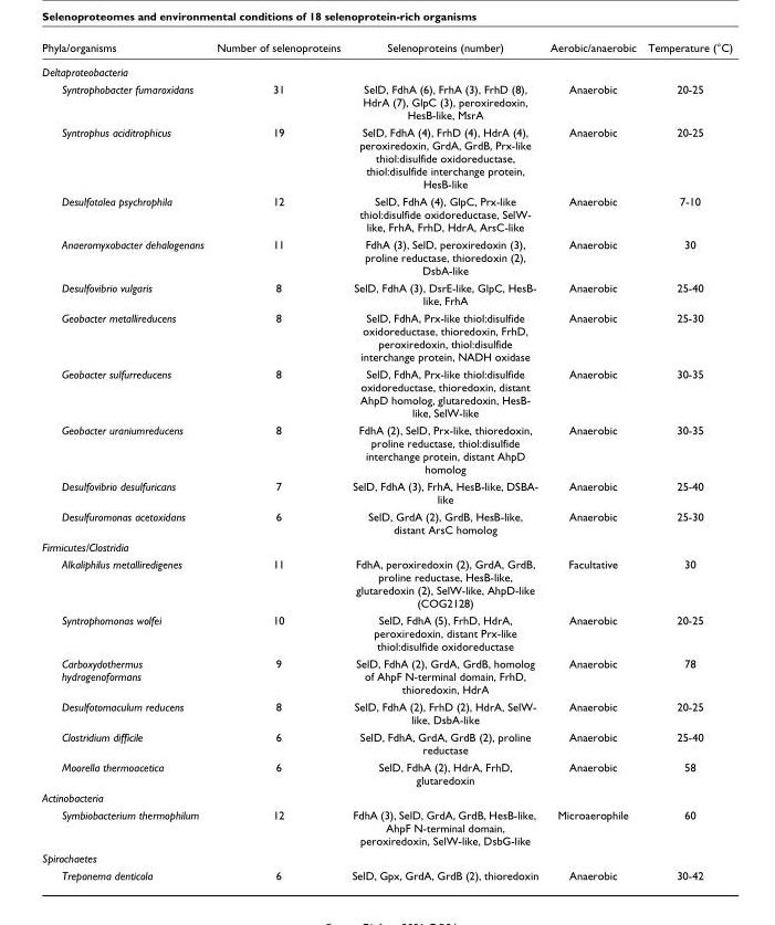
<table><thead><tr><td>Phyla/organisms</td><td>Number of selenoproteins</td><td>Selenoproteins (number)</td><td>Aerobic/anaerobic</td><td>Temperature (°C)</td></tr></thead><tbody><tr><td colspan="5">Deltaproteobacteria</td></tr><tr><td>Syntrophobacter fumaroxidans</td><td>31</td><td>SelD, FdhA (6), FrhA (3), FrhD (8), HdrA (7), GlpC (3), peroxiredoxin, HesB-like, MsrA</td><td>Anaerobic</td><td>20-25</td></tr><tr><td>Syntrophus aciditrophicus</td><td>19</td><td>SelD, FdhA (4), FrhD (4), HdrA (4), peroxiredoxin, GrdA, GrdB, Prx-like thiol:disulfide oxidoreductase, thiol:disulfide interchange protein, HesB-like</td><td>Anaerobic</td><td>20-25</td></tr><tr><td>Desulfotalea psychrophila</td><td>12</td><td>SelD, FdhA (4), GlpC, Prx-like thiol:disulfide oxidoreductase, SelW- like, FrhA, FrhD, HdrA, ArsC-like</td><td>Anaerobic</td><td>7-10</td></tr><tr><td>Anaeromyxobacter dehalogenans</td><td>11</td><td>FdhA (3), SelD, peroxiredoxin (3), proline reductase, thioredoxin (2), DsbA-like</td><td>Anaerobic</td><td>30</td></tr><tr><td>Desulfovibrio vulgaris</td><td>8</td><td>SelD, FdhA (3), DsrE-like, GlpC, HesB- like, FrhA</td><td>Anaerobic</td><td>25-40</td></tr><tr><td>Geobacter metallireducens</td><td>8</td><td>SelD, FdhA, Prx-like thiol:disulfide oxidoreductase, thioredoxin, FrhD, peroxiredoxin, thiol:disulfide interchange protein, NADH oxidase</td><td>Anaerobic</td><td>25-30</td></tr><tr><td>Geobacter sulfurreducens</td><td>8</td><td>SelD, FdhA, Prx-like thiol:disulfide oxidoreductase, thioredoxin, distant AhpD homolog, glutaredoxin, HesB- like, SelW-like</td><td>Anaerobic</td><td>30-35</td></tr><tr><td>Geobacter uraniumreducens</td><td>8</td><td>FdhA (2), SelD, Prx-like, thioredoxin, proline reductase, thiol:disulfide interchange protein, distant AhpD homolog</td><td>Anaerobic</td><td>30-35</td></tr><tr><td>Desulfovibrio desulfuricans</td><td>7</td><td>SelD, FdhA (3), FrhA, HesB-like, DSBA- like</td><td>Anaerobic</td><td>25-40</td></tr><tr><td>Desulfuromonas acetoxidans</td><td>6</td><td>SelD, GrdA (2), GrdB, HesB-like, distant ArsC homolog</td><td>Anaerobic</td><td>25-30</td></tr><tr><td colspan="5">Firmicutes/Clostridia</td></tr><tr><td>Alkaliphilus metalliredigenes</td><td>11</td><td>FdhA, peroxiredoxin (2), GrdA, GrdB, proline reductase, HesB-like, glutaredoxin (2), SelW-like, AhpD-like (COG2128)</td><td>Facultative</td><td>30</td></tr><tr><td>Syntrophomonas wolfei</td><td>10</td><td>SelD, FdhA (5), FrhD, HdrA, peroxiredoxin, distant Prx-like thiol:disulfide oxidoreductase</td><td>Anaerobic</td><td>20-25</td></tr><tr><td>Carboxydothermus hydrogenoformans</td><td>9</td><td>SelD, FdhA (2), GrdA, GrdB, homolog of AhpF N-terminal domain, FrhD, thioredoxin, HdrA</td><td>Anaerobic</td><td>78</td></tr><tr><td>Desulfotomaculum reducens</td><td>8</td><td>SelD, FdhA (2), FrhD (2), HdrA, SelW- like, DsbA-like</td><td>Anaerobic</td><td>20-25</td></tr><tr><td>Clostridium difficile</td><td>6</td><td>SelD, FdhA, GrdA, GrdB (2), proline reductase</td><td>Anaerobic</td><td>25-40</td></tr><tr><td>Moorella thermoacetica</td><td>6</td><td>SelD, FdhA (2), HdrA, FrhD, glutaredoxin</td><td>Anaerobic</td><td>58</td></tr><tr><td colspan="5">Actinobacteria</td></tr><tr><td>Symbiobacterium thermophilum</td><td>12</td><td>FdhA (3), SelD, GrdA, GrdB, HesB-like, AhpF N-terminal domain, peroxiredoxin, SelW-like, DsbG-like</td><td>Microaerophile</td><td>60</td></tr><tr><td colspan="5">Spirochaetes</td></tr><tr><td>Treponema denticola</td><td>6</td><td>SelD, Gpx, GrdA, GrdB (2), thioredoxin</td><td>Anaerobic</td><td>30-42</td></tr></tbody></table>